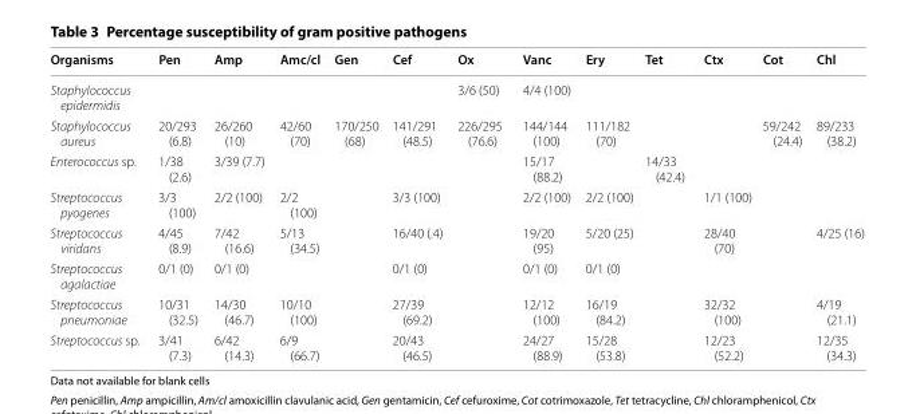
<table><thead><tr><td>Organisms</td><td>Pen</td><td>Amp</td><td>Amc/cl</td><td>Gen</td><td>Cef</td><td>Ox</td><td>Vanc</td><td>Ery</td><td>Tet</td><td>Ctx</td><td>Cot</td><td>Chl</td></tr></thead><tbody><tr><td>Staphylococcus epidermidis</td><td></td><td></td><td></td><td></td><td></td><td>3/6 (50)</td><td>4/4 (100)</td><td></td><td></td><td></td><td></td><td></td></tr><tr><td>Staphylococcus aureus</td><td>20/293 (6.8)</td><td>26/260 (10)</td><td>42/60 (70)</td><td>170/250 (68)</td><td>141/291 (48.5)</td><td>226/295 (76.6)</td><td>144/144 (100)</td><td>111/182 (70)</td><td></td><td></td><td>59/242 (24.4)</td><td>89/233 (38.2)</td></tr><tr><td>Enterococcus sp.</td><td>1/38 (2.6)</td><td>3/39 (7.7)</td><td></td><td></td><td></td><td></td><td>15/17 (88.2)</td><td></td><td>14/33 (42.4)</td><td></td><td></td><td></td></tr><tr><td>Streptococcus pyogenes</td><td>3/3 (100)</td><td>2/2 (100)</td><td>2/2 (100)</td><td></td><td>3/3 (100)</td><td></td><td>2/2 (100)</td><td>2/2 (100)</td><td></td><td>1/1 (100)</td><td></td><td></td></tr><tr><td>Streptococcus viridans</td><td>4/45 (8.9)</td><td>7/42 (16.6)</td><td>5/13 (34.5)</td><td></td><td>16/40 (.4)</td><td></td><td>19/20 (95)</td><td>5/20 (25)</td><td></td><td>28/40 (70)</td><td></td><td>4/25 (16)</td></tr><tr><td>Streptococcus agalactiae</td><td>0/1 (0)</td><td>0/1 (0)</td><td></td><td></td><td>0/1 (0)</td><td></td><td>0/1 (0)</td><td>0/1 (0)</td><td></td><td></td><td></td><td></td></tr><tr><td>Streptococcus pneumoniae</td><td>10/31 (32.5)</td><td>14/30 (46.7)</td><td>10/10 (100)</td><td></td><td>27/39 (69.2)</td><td></td><td>12/12 (100)</td><td>16/19 (84.2)</td><td></td><td>32/32 (100)</td><td></td><td>4/19 (21.1)</td></tr><tr><td>Streptococcus sp.</td><td>3/41 (7.3)</td><td>6/42 (14.3)</td><td>6/9 (66.7)</td><td></td><td>20/43 (46.5)</td><td></td><td>24/27 (88.9)</td><td>15/28 (53.8)</td><td></td><td>12/23 (52.2)</td><td></td><td>12/35 (34.3)</td></tr></tbody></table>